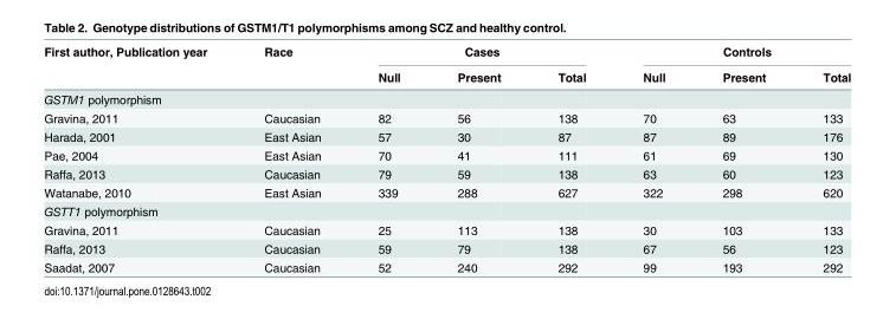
<table><thead><tr><td rowspan="2">First author, Publication year</td><td rowspan="2">Race</td><td colspan="3">Cases</td><td colspan="3">Controls</td></tr><tr><td>Null</td><td>Present</td><td>Total</td><td>Null</td><td>Present</td><td>Total</td></tr></thead><tbody><tr><td colspan="8">GSTM1 polymorphism</td></tr><tr><td>Gravina, 2011</td><td>Caucasian</td><td>82</td><td>56</td><td>138</td><td>70</td><td>63</td><td>133</td></tr><tr><td>Harada, 2001</td><td>East Asian</td><td>57</td><td>30</td><td>87</td><td>87</td><td>89</td><td>176</td></tr><tr><td>Pae, 2004</td><td>East Asian</td><td>70</td><td>41</td><td>111</td><td>61</td><td>69</td><td>130</td></tr><tr><td>Raffa, 2013</td><td>Caucasian</td><td>79</td><td>59</td><td>138</td><td>63</td><td>60</td><td>123</td></tr><tr><td>Watanabe, 2010</td><td>East Asian</td><td>339</td><td>288</td><td>627</td><td>322</td><td>298</td><td>620</td></tr><tr><td colspan="8">GSTT1 polymorphism</td></tr><tr><td>Gravina, 2011</td><td>Caucasian</td><td>25</td><td>113</td><td>138</td><td>30</td><td>103</td><td>133</td></tr><tr><td>Raffa, 2013</td><td>Caucasian</td><td>59</td><td>79</td><td>138</td><td>67</td><td>56</td><td>123</td></tr><tr><td>Saadat, 2007</td><td>Caucasian</td><td>52</td><td>240</td><td>292</td><td>99</td><td>193</td><td>292</td></tr></tbody></table>